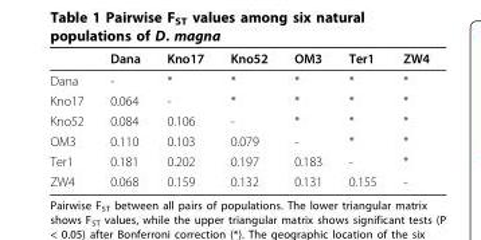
<table><thead><tr><td></td><td>Dana</td><td>Kno17</td><td>Kno52</td><td>OM3</td><td>Ter1</td><td>ZW4</td></tr></thead><tbody><tr><td>Dana</td><td>-</td><td>*</td><td>*</td><td>*</td><td>*</td><td>*</td></tr><tr><td>Kno17</td><td>0.064</td><td>-</td><td>*</td><td>*</td><td>*</td><td>*</td></tr><tr><td>Kno52</td><td>0.084</td><td>0.106</td><td>-</td><td>*</td><td>*</td><td>*</td></tr><tr><td>OM3</td><td>0.110</td><td>0.103</td><td>0.079</td><td>-</td><td>*</td><td>*</td></tr><tr><td>Ter1</td><td>0.181</td><td>0.202</td><td>0.197</td><td>0.183</td><td>-</td><td>*</td></tr><tr><td>ZW4</td><td>0.068</td><td>0.159</td><td>0.132</td><td>0.131</td><td>0.155</td><td>-</td></tr></tbody></table>